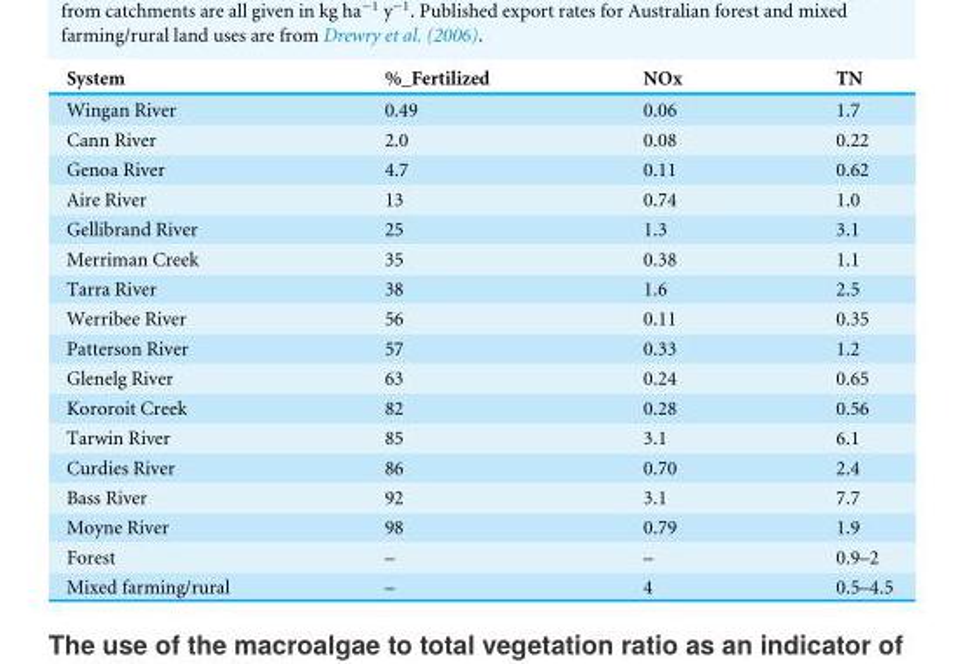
<table><thead><tr><td>System</td><td>%_Fertilized</td><td>NOx</td><td>TN</td></tr></thead><tbody><tr><td>Wingan River</td><td>0.49</td><td>0.06</td><td>1.7</td></tr><tr><td>Cann River</td><td>2.0</td><td>0.08</td><td>0.22</td></tr><tr><td>Genoa River</td><td>4.7</td><td>0.11</td><td>0.62</td></tr><tr><td>Aire River</td><td>13</td><td>0.74</td><td>1.0</td></tr><tr><td>Gellibrand River</td><td>25</td><td>1.3</td><td>3.1</td></tr><tr><td>Merriman Creek</td><td>35</td><td>0.38</td><td>1.1</td></tr><tr><td>Tarra River</td><td>38</td><td>1.6</td><td>2.5</td></tr><tr><td>Werribee River</td><td>56</td><td>0.11</td><td>0.35</td></tr><tr><td>Patterson River</td><td>57</td><td>0.33</td><td>1.2</td></tr><tr><td>Glenelg River</td><td>63</td><td>0.24</td><td>0.65</td></tr><tr><td>Kororoit Creek</td><td>82</td><td>0.28</td><td>0.56</td></tr><tr><td>Tarwin River</td><td>85</td><td>3.1</td><td>6.1</td></tr><tr><td>Curdies River</td><td>86</td><td>0.70</td><td>2.4</td></tr><tr><td>Bass River</td><td>92</td><td>3.1</td><td>7.7</td></tr><tr><td>Moyne River</td><td>98</td><td>0.79</td><td>1.9</td></tr><tr><td>Forest</td><td>–</td><td>–</td><td>0.9–2</td></tr><tr><td>Mixed farming/rural</td><td>–</td><td>4</td><td>0.5–4.5</td></tr></tbody></table>